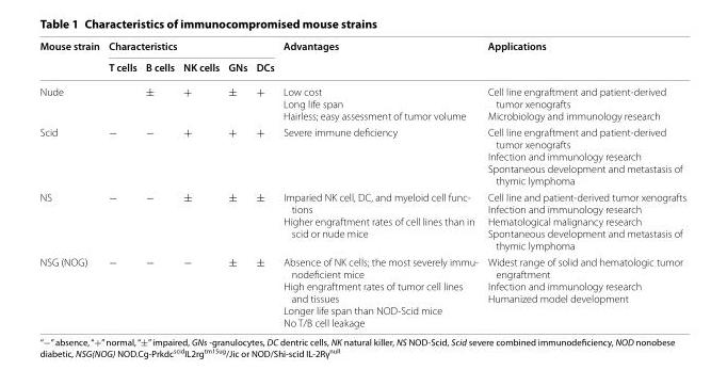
<table><thead><tr><td rowspan="2">Mouse strain</td><td colspan="5">Characteristics</td><td rowspan="2">Advantages</td><td rowspan="2">Applications</td></tr><tr><td>T cells</td><td>B cells</td><td>NK cells</td><td>GNs</td><td>DCs</td></tr></thead><tbody><tr><td>Nude</td><td></td><td>±</td><td>+</td><td>±</td><td>+</td><td>Low cost Long life span Hairless; easy assessment of tumor volume</td><td>Cell line engraftment and patient-derived tumor xenografts Microbiology and immunology research</td></tr><tr><td>Scid</td><td>−</td><td>−</td><td>+</td><td>+</td><td>+</td><td>Severe immune deficiency</td><td>Cell line engraftment and patient-derived tumor xenografts Infection and immunology research Spontaneous development and metastasis of thymic lymphoma</td></tr><tr><td>NS</td><td>−</td><td>−</td><td>±</td><td>±</td><td>±</td><td>Imparied NK cell, DC, and myeloid cell func- tions Higher engraftment rates of cell lines than in scid or nude mice</td><td>Cell line and patient-derived tumor xenografts Infection and immunology research Hematological malignancy research Spontaneous development and metastasis of thymic lymphoma</td></tr><tr><td>NSG (NOG)</td><td>−</td><td>−</td><td>−</td><td>±</td><td>±</td><td>Absence of NK cells; the most severely immu- nodeficient mice High engraftment rates of tumor cell lines and tissues Longer life span than NOD-Scid mice No T/B cell leakage</td><td>Widest range of solid and hematologic tumor engraftment Infection and immunology research Humanized model development</td></tr></tbody></table>